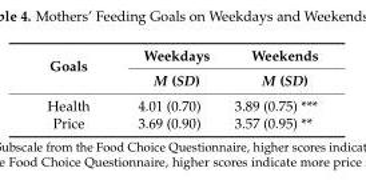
<table><thead><tr><td rowspan="2">Goals</td><td rowspan="2">Weekdays M (SD)</td><td rowspan="2">Weekends M (SD)</td></tr><tr></tr></thead><tbody><tr><td>Health</td><td>4.01 (0.70)</td><td>3.89 (0.75) ***</td></tr><tr><td>Price</td><td>3.69 (0.90)</td><td>3.57 (0.95) **</td></tr></tbody></table>